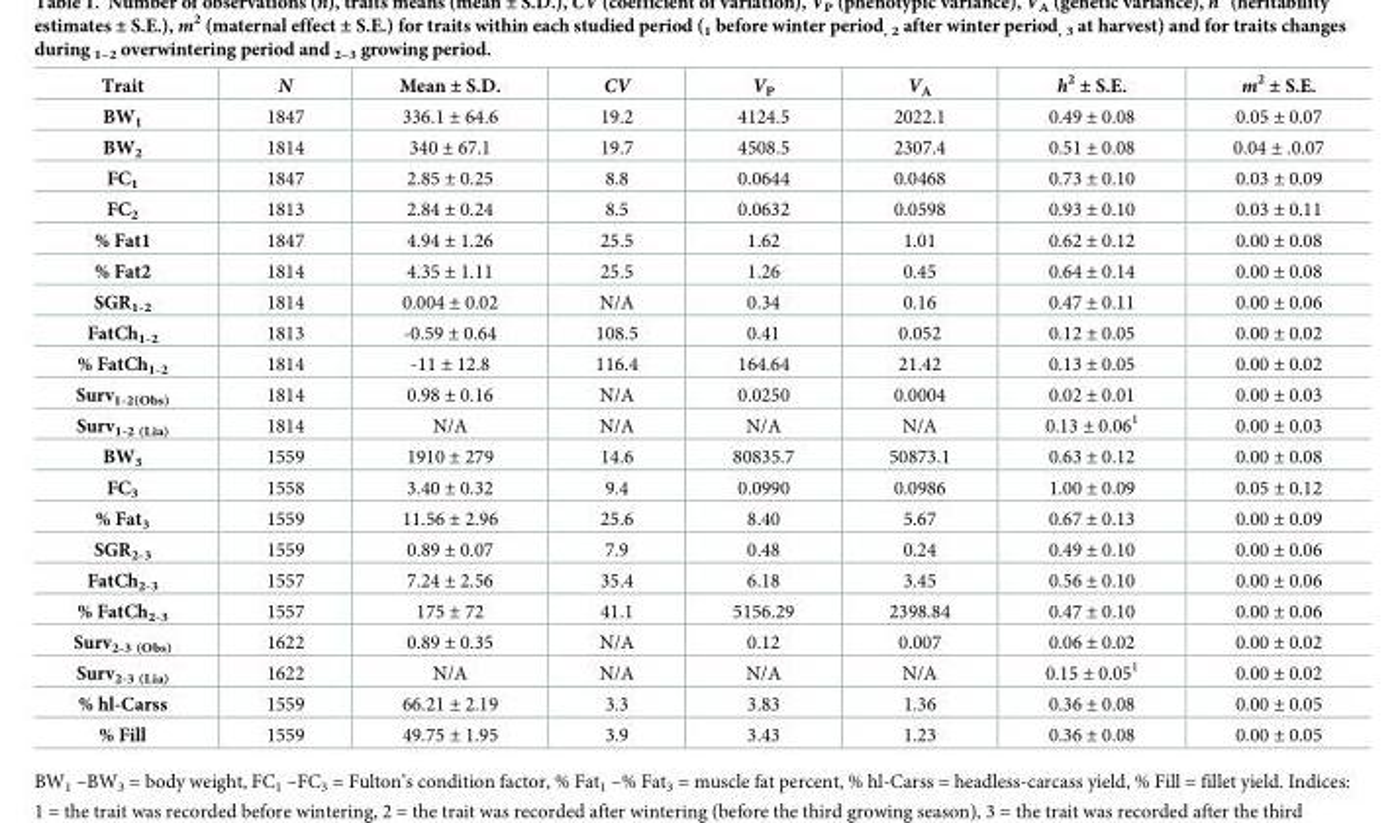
<table><thead><tr><td>Trait</td><td>N</td><td>Mean ± S.D.</td><td>CV</td><td>V<sub>P</sub></td><td>V<sub>A</sub></td><td>h<sup>2</sup> ± S.E.</td><td>m<sup>2</sup> ± S.E.</td></tr></thead><tbody><tr><td>BW<sub>1</sub></td><td>1847</td><td>336.1 ± 64.6</td><td>19.2</td><td>4124.5</td><td>2022.1</td><td>0.49 ± 0.08</td><td>0.05 ± 0.07</td></tr><tr><td>BW<sub>2</sub></td><td>1814</td><td>340 ± 67.1</td><td>19.7</td><td>4508.5</td><td>2307.4</td><td>0.51 ± 0.08</td><td>0.04 ± .0.07</td></tr><tr><td>FC<sub>1</sub></td><td>1847</td><td>2.85 ± 0.25</td><td>8.8</td><td>0.0644</td><td>0.0468</td><td>0.73 ± 0.10</td><td>0.03 ± 0.09</td></tr><tr><td>FC<sub>2</sub></td><td>1813</td><td>2.84 ± 0.24</td><td>8.5</td><td>0.0632</td><td>0.0598</td><td>0.93 ± 0.10</td><td>0.03 ± 0.11</td></tr><tr><td>% Fat1</td><td>1847</td><td>4.94 ± 1.26</td><td>25.5</td><td>1.62</td><td>1.01</td><td>0.62 ± 0.12</td><td>0.00 ± 0.08</td></tr><tr><td>% Fat2</td><td>1814</td><td>4.35 ± 1.11</td><td>25.5</td><td>1.26</td><td>0.45</td><td>0.64 ± 0.14</td><td>0.00 ± 0.08</td></tr><tr><td>SGR<sub>1-2</sub></td><td>1814</td><td>0.004 ± 0.02</td><td>N/A</td><td>0.34</td><td>0.16</td><td>0.47 ± 0.11</td><td>0.00 ± 0.06</td></tr><tr><td>FatCh<sub>1-2</sub></td><td>1813</td><td>-0.59 ± 0.64</td><td>108.5</td><td>0.41</td><td>0.052</td><td>0.12 ± 0.05</td><td>0.00 ± 0.02</td></tr><tr><td>% FatCh<sub>1-2</sub></td><td>1814</td><td>-11 ± 12.8</td><td>116.4</td><td>164.64</td><td>21.42</td><td>0.13 ± 0.05</td><td>0.00 ± 0.02</td></tr><tr><td>Surv<sub>1-2(Obs)</sub></td><td>1814</td><td>0.98 ± 0.16</td><td>N/A</td><td>0.0250</td><td>0.0004</td><td>0.02 ± 0.01</td><td>0.00 ± 0.03</td></tr><tr><td>Surv<sub>1-2 (Lia)</sub></td><td>1814</td><td>N/A</td><td>N/A</td><td>N/A</td><td>N/A</td><td>0.13 ± 0.06<sup>1</sup></td><td>0.00 ± 0.03</td></tr><tr><td>BW<sub>3</sub></td><td>1559</td><td>1910 ± 279</td><td>14.6</td><td>80835.7</td><td>50873.1</td><td>0.63 ± 0.12</td><td>0.00 ± 0.08</td></tr><tr><td>FC<sub>3</sub></td><td>1558</td><td>3.40 ± 0.32</td><td>9.4</td><td>0.0990</td><td>0.0986</td><td>1.00 ± 0.09</td><td>0.05 ± 0.12</td></tr><tr><td>% Fat<sub>3</sub></td><td>1559</td><td>11.56 ± 2.96</td><td>25.6</td><td>8.40</td><td>5.67</td><td>0.67 ± 0.13</td><td>0.00 ± 0.09</td></tr><tr><td>SGR<sub>2-3</sub></td><td>1559</td><td>0.89 ± 0.07</td><td>7.9</td><td>0.48</td><td>0.24</td><td>0.49 ± 0.10</td><td>0.00 ± 0.06</td></tr><tr><td>FatCh<sub>2-3</sub></td><td>1557</td><td>7.24 ± 2.56</td><td>35.4</td><td>6.18</td><td>3.45</td><td>0.56 ± 0.10</td><td>0.00 ± 0.06</td></tr><tr><td>% FatCh<sub>2-3</sub></td><td>1557</td><td>175 ± 72</td><td>41.1</td><td>5156.29</td><td>2398.84</td><td>0.47 ± 0.10</td><td>0.00 ± 0.06</td></tr><tr><td>Surv<sub>2-3 (Obs)</sub></td><td>1622</td><td>0.89 ± 0.35</td><td>N/A</td><td>0.12</td><td>0.007</td><td>0.06 ± 0.02</td><td>0.00 ± 0.02</td></tr><tr><td>Surv<sub>2-3 (Lia)</sub></td><td>1622</td><td>N/A</td><td>N/A</td><td>N/A</td><td>N/A</td><td>0.15 ± 0.05<sup>1</sup></td><td>0.00 ± 0.02</td></tr><tr><td>% hl-Carss</td><td>1559</td><td>66.21 ± 2.19</td><td>3.3</td><td>3.83</td><td>1.36</td><td>0.36 ± 0.08</td><td>0.00 ± 0.05</td></tr><tr><td>% Fill</td><td>1559</td><td>49.75 ± 1.95</td><td>3.9</td><td>3.43</td><td>1.23</td><td>0.36 ± 0.08</td><td>0.00 ± 0.05</td></tr></tbody></table>